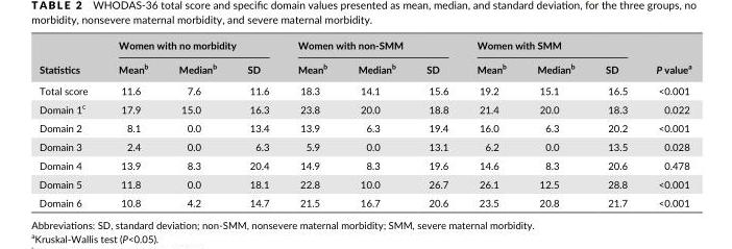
<table><thead><tr><td rowspan="2">Statistics</td><td colspan="3">Women with no morbidity</td><td colspan="3">Women with non- SMM</td><td colspan="3">Women with SMM</td><td rowspan="2">P value<sup>a</sup></td></tr><tr><td>Mean<sup>b</sup></td><td>Median<sup>b</sup></td><td>SD</td><td>Mean<sup>b</sup></td><td>Median<sup>b</sup></td><td>SD</td><td>Mean<sup>b</sup></td><td>Median<sup>b</sup></td><td>SD</td></tr></thead><tbody><tr><td>Total score</td><td>11.6</td><td>7.6</td><td>11.6</td><td>18.3</td><td>14.1</td><td>15.6</td><td>19.2</td><td>15.1</td><td>16.5</td><td>&lt;0.001</td></tr><tr><td>Domain 1<sup>c</sup></td><td>17.9</td><td>15.0</td><td>16.3</td><td>23.8</td><td>20.0</td><td>18.8</td><td>21.4</td><td>20.0</td><td>18.3</td><td>0.022</td></tr><tr><td>Domain 2</td><td>8.1</td><td>0.0</td><td>13.4</td><td>13.9</td><td>6.3</td><td>19.4</td><td>16.0</td><td>6.3</td><td>20.2</td><td>&lt;0.001</td></tr><tr><td>Domain 3</td><td>2.4</td><td>0.0</td><td>6.3</td><td>5.9</td><td>0.0</td><td>13.1</td><td>6.2</td><td>0.0</td><td>13.5</td><td>0.028</td></tr><tr><td>Domain 4</td><td>13.9</td><td>8.3</td><td>20.4</td><td>14.9</td><td>8.3</td><td>19.6</td><td>14.6</td><td>8.3</td><td>20.6</td><td>0.478</td></tr><tr><td>Domain 5</td><td>11.8</td><td>0.0</td><td>18.1</td><td>22.8</td><td>10.0</td><td>26.7</td><td>26.1</td><td>12.5</td><td>28.8</td><td>&lt;0.001</td></tr><tr><td>Domain 6</td><td>10.8</td><td>4.2</td><td>14.7</td><td>21.5</td><td>16.7</td><td>20.6</td><td>23.5</td><td>20.8</td><td>21.7</td><td>&lt;0.001</td></tr></tbody></table>